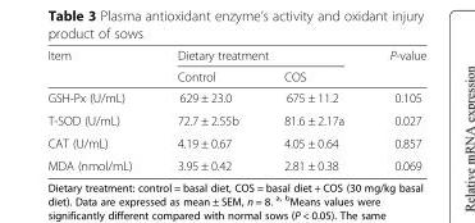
<table><thead><tr><td rowspan="2">Item</td><td colspan="2">Dietary treatment</td><td rowspan="2">P-value</td></tr><tr><td>Control</td><td>COS</td></tr></thead><tbody><tr><td>GSH-Px (U/mL)</td><td>629 ± 23.0</td><td>675 ± 11.2</td><td>0.105</td></tr><tr><td>T-SOD (U/mL)</td><td>72.7 ± 2.55b</td><td>81.6 ± 2.17a</td><td>0.027</td></tr><tr><td>CAT (U/mL)</td><td>4.19 ± 0.67</td><td>4.05 ± 0.64</td><td>0.857</td></tr><tr><td>MDA (nmol/mL)</td><td>3.95 ± 0.42</td><td>2.81 ± 0.38</td><td>0.069</td></tr></tbody></table>